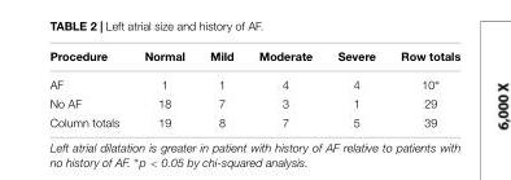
<table><thead><tr><td>Procedure</td><td>Normal</td><td>Mild</td><td>Moderate</td><td>Severe</td><td>Row totals</td></tr></thead><tbody><tr><td>AF</td><td>1</td><td>1</td><td>4</td><td>4</td><td>10∗</td></tr><tr><td>No AF</td><td>18</td><td>7</td><td>3</td><td>1</td><td>29</td></tr><tr><td>Column totals</td><td>19</td><td>8</td><td>7</td><td>5</td><td>39</td></tr></tbody></table>